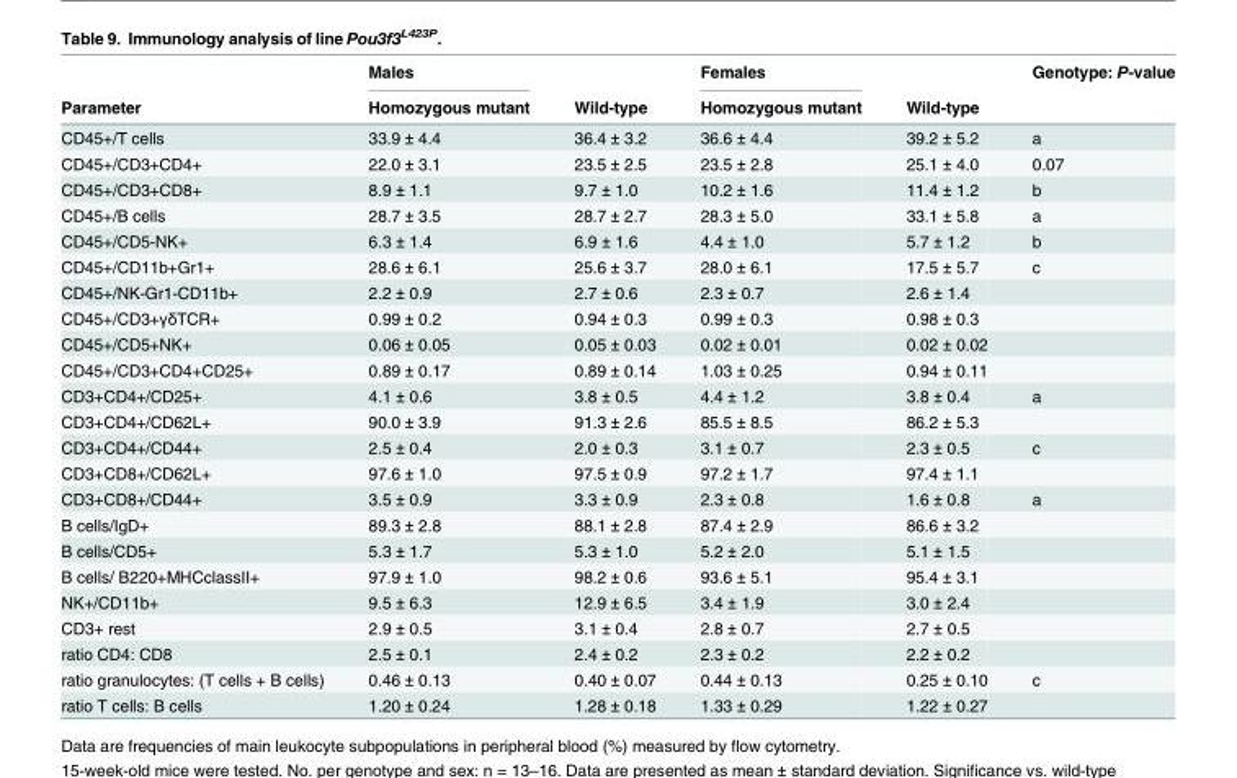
<table><thead><tr><td rowspan="2">Parameter</td><td rowspan="2">Males Homozygous mutant</td><td rowspan="2">Wild-type</td><td rowspan="2">Females Homozygous mutant</td><td rowspan="2">Wild-type</td><td rowspan="2">Genotype: P-value</td></tr><tr></tr></thead><tbody><tr><td>CD45+/T cells</td><td>33.9 ± 4.4</td><td>36.4 ± 3.2</td><td>36.6 ± 4.4</td><td>39.2 ± 5.2</td><td>a</td></tr><tr><td>CD45+/CD3+CD4+</td><td>22.0 ± 3.1</td><td>23.5 ± 2.5</td><td>23.5 ± 2.8</td><td>25.1 ± 4.0</td><td>0.07</td></tr><tr><td>CD45+/CD3+CD8+</td><td>8.9 ± 1.1</td><td>9.7 ± 1.0</td><td>10.2 ± 1.6</td><td>11.4 ± 1.2</td><td>b</td></tr><tr><td>CD45+/B cells</td><td>28.7 ± 3.5</td><td>28.7 ± 2.7</td><td>28.3 ± 5.0</td><td>33.1 ± 5.8</td><td>a</td></tr><tr><td>CD45+/CD5-NK+</td><td>6.3 ± 1.4</td><td>6.9 ± 1.6</td><td>4.4 ± 1.0</td><td>5.7 ± 1.2</td><td>b</td></tr><tr><td>CD45+/CD11b+Gr1+</td><td>28.6 ± 6.1</td><td>25.6 ± 3.7</td><td>28.0 ± 6.1</td><td>17.5 ± 5.7</td><td>c</td></tr><tr><td>CD45+/NK-Gr1-CD11b+</td><td>2.2 ± 0.9</td><td>2.7 ± 0.6</td><td>2.3 ± 0.7</td><td>2.6 ± 1.4</td><td></td></tr><tr><td>CD45+/CD3+γδTCR+</td><td>0.99 ± 0.2</td><td>0.94 ± 0.3</td><td>0.99 ± 0.3</td><td>0.98 ± 0.3</td><td></td></tr><tr><td>CD45+/CD5+NK+</td><td>0.06 ± 0.05</td><td>0.05 ± 0.03</td><td>0.02 ± 0.01</td><td>0.02 ± 0.02</td><td></td></tr><tr><td>CD45+/CD3+CD4+CD25+</td><td>0.89 ± 0.17</td><td>0.89 ± 0.14</td><td>1.03 ± 0.25</td><td>0.94 ± 0.11</td><td></td></tr><tr><td>CD3+CD4+/CD25+</td><td>4.1 ± 0.6</td><td>3.8 ± 0.5</td><td>4.4 ± 1.2</td><td>3.8 ± 0.4</td><td>a</td></tr><tr><td>CD3+CD4+/CD62L+</td><td>90.0 ± 3.9</td><td>91.3 ± 2.6</td><td>85.5 ± 8.5</td><td>86.2 ± 5.3</td><td></td></tr><tr><td>CD3+CD4+/CD44+</td><td>2.5 ± 0.4</td><td>2.0 ± 0.3</td><td>3.1 ± 0.7</td><td>2.3 ± 0.5</td><td>c</td></tr><tr><td>CD3+CD8+/CD62L+</td><td>97.6 ± 1.0</td><td>97.5 ± 0.9</td><td>97.2 ± 1.7</td><td>97.4 ± 1.1</td><td></td></tr><tr><td>CD3+CD8+/CD44+</td><td>3.5 ± 0.9</td><td>3.3 ± 0.9</td><td>2.3 ± 0.8</td><td>1.6 ± 0.8</td><td>a</td></tr><tr><td>B cells/IgD+</td><td>89.3 ± 2.8</td><td>88.1 ± 2.8</td><td>87.4 ± 2.9</td><td>86.6 ± 3.2</td><td></td></tr><tr><td>B cells/CD5+</td><td>5.3 ± 1.7</td><td>5.3 ± 1.0</td><td>5.2 ± 2.0</td><td>5.1 ± 1.5</td><td></td></tr><tr><td>B cells/ B220+MHCclassII+</td><td>97.9 ± 1.0</td><td>98.2 ± 0.6</td><td>93.6 ± 5.1</td><td>95.4 ± 3.1</td><td></td></tr><tr><td>NK+/CD11b+</td><td>9.5 ± 6.3</td><td>12.9 ± 6.5</td><td>3.4 ± 1.9</td><td>3.0 ± 2.4</td><td></td></tr><tr><td>CD3+ rest</td><td>2.9 ± 0.5</td><td>3.1 ± 0.4</td><td>2.8 ± 0.7</td><td>2.7 ± 0.5</td><td></td></tr><tr><td>ratio CD4: CD8</td><td>2.5 ± 0.1</td><td>2.4 ± 0.2</td><td>2.3 ± 0.2</td><td>2.2 ± 0.2</td><td></td></tr><tr><td>ratio granulocytes: (T cells + B cells)</td><td>0.46 ± 0.13</td><td>0.40 ± 0.07</td><td>0.44 ± 0.13</td><td>0.25 ± 0.10</td><td>c</td></tr><tr><td>ratio T cells: B cells</td><td>1.20 ± 0.24</td><td>1.28 ± 0.18</td><td>1.33 ± 0.29</td><td>1.22 ± 0.27</td><td></td></tr></tbody></table>